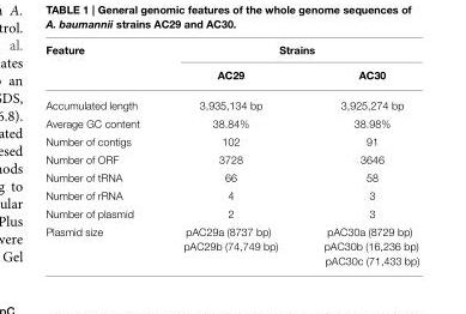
<table><thead><tr><td rowspan="2">Feature</td><td colspan="2">Strains</td></tr><tr><td>AC29</td><td>AC30</td></tr></thead><tbody><tr><td>Accumulated length</td><td>3,935,134 bp</td><td>3,925,274 bp</td></tr><tr><td>Average GC content</td><td>38.84%</td><td>38.98%</td></tr><tr><td>Number of contigs</td><td>102</td><td>91</td></tr><tr><td>Number of ORF</td><td>3728</td><td>3646</td></tr><tr><td>Number of tRNA</td><td>66</td><td>58</td></tr><tr><td>Number of rRNA</td><td>4</td><td>3</td></tr><tr><td>Number of plasmid</td><td>2</td><td>3</td></tr><tr><td>Plasmid size</td><td>pAC29a (8737 bp) pAC29b (74,749 bp)</td><td>pAC30a (8729 bp) pAC30b (16,236 bp) pAC30c (71,433 bp)</td></tr></tbody></table>